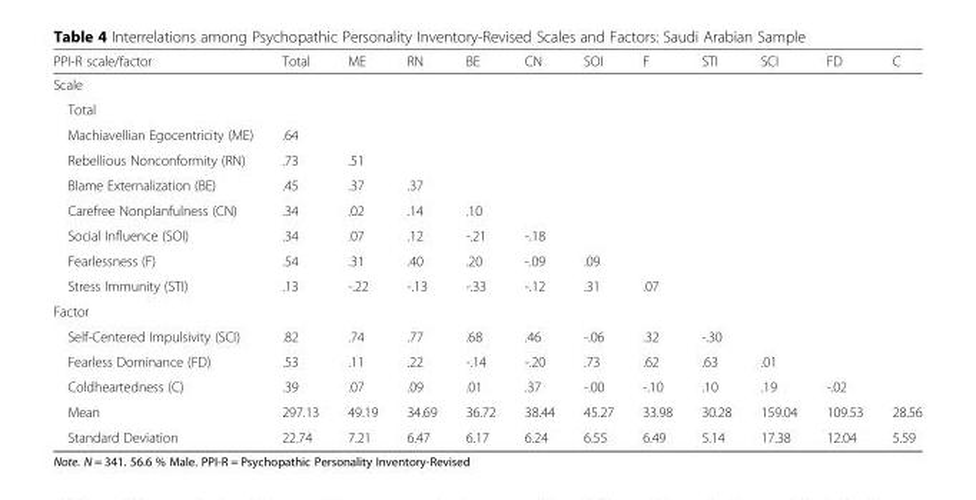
<table><thead><tr><td>PPI-R scale/factor</td><td>Total</td><td>ME</td><td>RN</td><td>BE</td><td>CN</td><td>SOI</td><td>F</td><td>STI</td><td>SCI</td><td>FD</td><td>C</td></tr></thead><tbody><tr><td colspan="12">Scale</td></tr><tr><td colspan="12">Total</td></tr><tr><td>Machiavellian Egocentricity (ME)</td><td>.64</td><td></td><td></td><td></td><td></td><td></td><td></td><td></td><td></td><td></td><td></td></tr><tr><td>Rebellious Nonconformity (RN)</td><td>.73</td><td>.51</td><td></td><td></td><td></td><td></td><td></td><td></td><td></td><td></td><td></td></tr><tr><td>Blame Externalization (BE)</td><td>.45</td><td>.37</td><td>.37</td><td></td><td></td><td></td><td></td><td></td><td></td><td></td><td></td></tr><tr><td>Carefree Nonplanfulness (CN)</td><td>.34</td><td>.02</td><td>.14</td><td>.10</td><td></td><td></td><td></td><td></td><td></td><td></td><td></td></tr><tr><td>Social Influence (SOI)</td><td>.34</td><td>.07</td><td>.12</td><td>-.21</td><td>-.18</td><td></td><td></td><td></td><td></td><td></td><td></td></tr><tr><td>Fearlessness (F)</td><td>.54</td><td>.31</td><td>.40</td><td>.20</td><td>-.09</td><td>.09</td><td></td><td></td><td></td><td></td><td></td></tr><tr><td>Stress Immunity (STI)</td><td>.13</td><td>-.22</td><td>-.13</td><td>-.33</td><td>-.12</td><td>.31</td><td>.07</td><td></td><td></td><td></td><td></td></tr><tr><td colspan="12">Factor</td></tr><tr><td>Self-Centered Impulsivity (SCI)</td><td>.82</td><td>.74</td><td>.77</td><td>.68</td><td>.46</td><td>-.06</td><td>.32</td><td>-.30</td><td></td><td></td><td></td></tr><tr><td>Fearless Dominance (FD)</td><td>.53</td><td>.11</td><td>.22</td><td>-.14</td><td>-.20</td><td>.73</td><td>.62</td><td>.63</td><td>.01</td><td></td><td></td></tr><tr><td>Coldheartedness (C)</td><td>.39</td><td>.07</td><td>.09</td><td>.01</td><td>.37</td><td>-.00</td><td>-.10</td><td>.10</td><td>.19</td><td>-.02</td><td></td></tr><tr><td>Mean</td><td>297.13</td><td>49.19</td><td>34.69</td><td>36.72</td><td>38.44</td><td>45.27</td><td>33.98</td><td>30.28</td><td>159.04</td><td>109.53</td><td>28.56</td></tr><tr><td>Standard Deviation</td><td>22.74</td><td>7.21</td><td>6.47</td><td>6.17</td><td>6.24</td><td>6.55</td><td>6.49</td><td>5.14</td><td>17.38</td><td>12.04</td><td>5.59</td></tr></tbody></table>